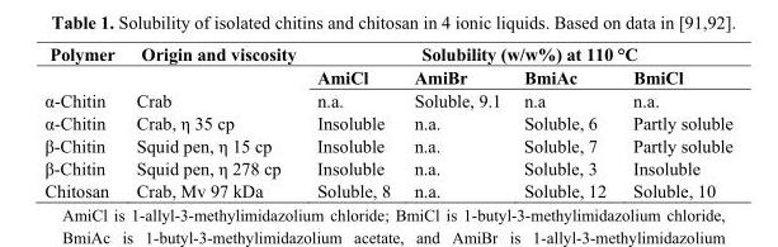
<table><thead><tr><td rowspan="2">Polymer</td><td rowspan="2">Origin and viscosity</td><td colspan="4">Solubility (w/w%) at 110 °C</td></tr><tr><td>AmiCl</td><td>AmiBr</td><td>BmiAc</td><td>BmiCl</td></tr></thead><tbody><tr><td>α-Chitin</td><td>Crab</td><td>n.a.</td><td>Soluble, 9.1</td><td>n.a</td><td>n.a.</td></tr><tr><td>α-Chitin</td><td>Crab, η 35 cp</td><td>Insoluble</td><td>n.a.</td><td>Soluble, 6</td><td>Partly soluble</td></tr><tr><td>β-Chitin</td><td>Squid pen, η 15 cp</td><td>Insoluble</td><td>n.a.</td><td>Soluble, 7</td><td>Partly soluble</td></tr><tr><td>β-Chitin</td><td>Squid pen, η 278 cp</td><td>Insoluble</td><td>n.a.</td><td>Soluble, 3</td><td>Insoluble</td></tr><tr><td>Chitosan</td><td>Crab, Mv 97 kDa</td><td>Soluble, 8</td><td>n.a.</td><td>Soluble, 12</td><td>Soluble, 10</td></tr></tbody></table>